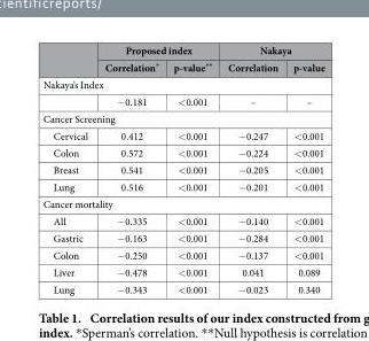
<table><thead><tr><td rowspan="2"></td><td colspan="2">Proposed index</td><td colspan="2">Nakaya</td></tr><tr><td>Correlation*</td><td>p-value**</td><td>Correlation</td><td>p-value</td></tr></thead><tbody><tr><td colspan="5">Nakaya’s Index</td></tr><tr><td></td><td>− 0.181</td><td>&lt; 0.001</td><td>–</td><td>–</td></tr><tr><td colspan="5">Cancer Screening</td></tr><tr><td>Cervical</td><td>0.412</td><td>&lt; 0.001</td><td>− 0.247</td><td>&lt; 0.001</td></tr><tr><td>Colon</td><td>0.572</td><td>&lt; 0.001</td><td>− 0.224</td><td>&lt; 0.001</td></tr><tr><td>Breast</td><td>0.541</td><td>&lt; 0.001</td><td>− 0.205</td><td>&lt; 0.001</td></tr><tr><td>Lung</td><td>0.516</td><td>&lt; 0.001</td><td>− 0.201</td><td>&lt; 0.001</td></tr><tr><td colspan="5">Cancer mortality</td></tr><tr><td>All</td><td>− 0.335</td><td>&lt; 0.001</td><td>− 0.140</td><td>&lt; 0.001</td></tr><tr><td>Gastric</td><td>− 0.163</td><td>&lt; 0.001</td><td>− 0.284</td><td>&lt; 0.001</td></tr><tr><td>Colon</td><td>− 0.250</td><td>&lt; 0.001</td><td>− 0.137</td><td>&lt; 0.001</td></tr><tr><td>Liver</td><td>− 0.478</td><td>&lt; 0.001</td><td>0.041</td><td>0.089</td></tr><tr><td>Lung</td><td>− 0.343</td><td>&lt; 0.001</td><td>− 0.023</td><td>0.340</td></tr></tbody></table>